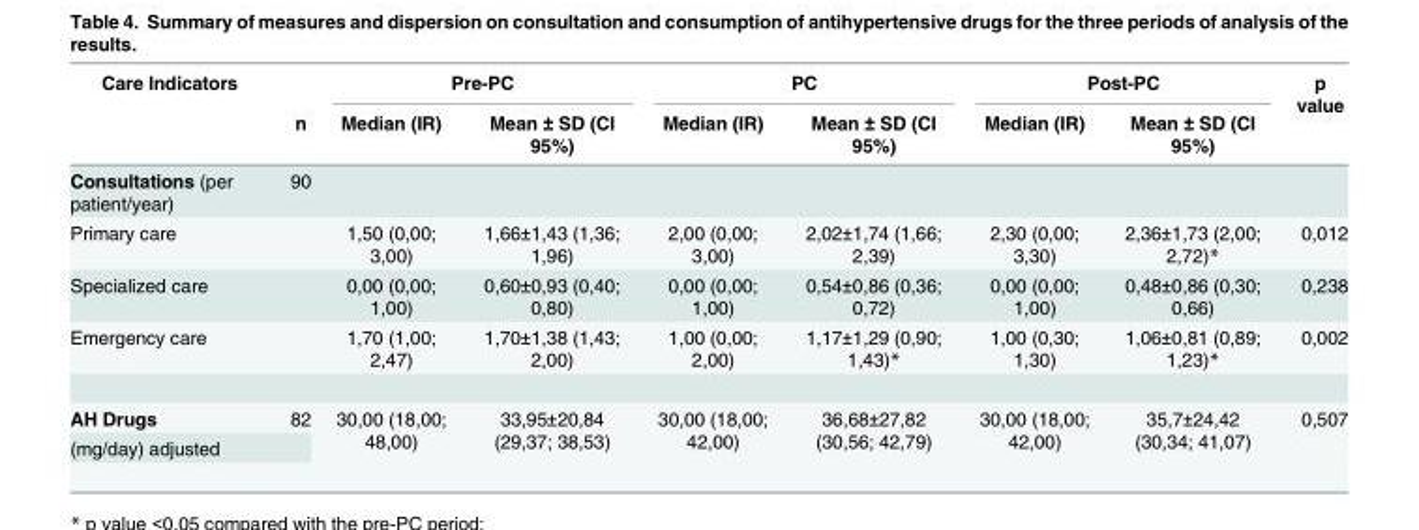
<table><thead><tr><td rowspan="2">Care Indicators</td><td rowspan="2">n</td><td colspan="2">Pre-PC</td><td colspan="2">PC</td><td colspan="2">Post-PC</td><td rowspan="2">p value</td></tr><tr><td>Median (IR)</td><td>Mean ± SD (CI 95%)</td><td>Median (IR)</td><td>Mean ± SD (CI 95%)</td><td>Median (IR)</td><td>Mean ± SD (CI 95%)</td></tr></thead><tbody><tr><td>Consultations (per patient/year)</td><td>90</td><td></td><td></td><td></td><td></td><td></td><td></td><td></td></tr><tr><td>Primary care</td><td></td><td>1,50 (0,00; 3,00)</td><td>1,66±1,43 (1,36; 1,96)</td><td>2,00 (0,00; 3,00)</td><td>2,02±1,74 (1,66; 2,39)</td><td>2,30 (0,00; 3,30)</td><td>2,36±1,73 (2,00; 2,72)*</td><td>0,012</td></tr><tr><td>Specialized care</td><td></td><td>0,00 (0,00; 1,00)</td><td>0,60±0,93 (0,40; 0,80)</td><td>0,00 (0,00; 1,00)</td><td>0,54±0,86 (0,36; 0,72)</td><td>0,00 (0,00; 1,00)</td><td>0,48±0,86 (0,30; 0,66)</td><td>0,238</td></tr><tr><td>Emergency care</td><td></td><td>1,70 (1,00; 2,47)</td><td>1,70±1,38 (1,43; 2,00)</td><td>1,00 (0,00; 2,00)</td><td>1,17±1,29 (0,90; 1,43)*</td><td>1,00 (0,30; 1,30)</td><td>1,06±0,81 (0,89; 1,23)*</td><td>0,002</td></tr><tr><td>AH Drugs</td><td>82</td><td rowspan="2">30,00 (18,00; 48,00)</td><td rowspan="2">33,95±20,84 (29,37; 38,53)</td><td rowspan="2">30,00 (18,00; 42,00)</td><td rowspan="2">36,68±27,82 (30,56; 42,79)</td><td rowspan="2">30,00 (18,00; 42,00)</td><td rowspan="2">35,7±24,42 (30,34; 41,07)</td><td rowspan="2">0,507</td></tr><tr><td>(mg/day) adjusted</td><td></td></tr></tbody></table>